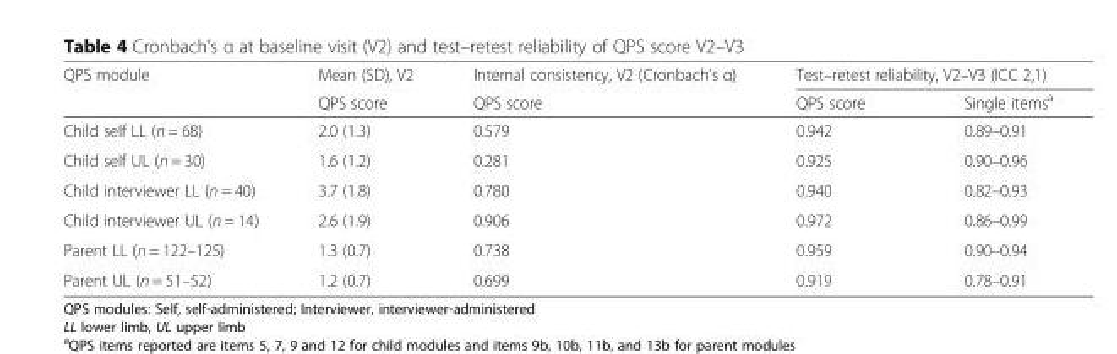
<table><thead><tr><td rowspan="2">QPS module</td><td rowspan="2">Mean (SD), V2 QPS score</td><td rowspan="2">Internal consistency, V2 (Cronbach’s α) QPS score</td><td colspan="2">Test–retest reliability, V2–V3 (ICC 2,1)</td></tr><tr><td>QPS score</td><td>Single items<sup>a</sup></td></tr></thead><tbody><tr><td>Child self LL (n = 68)</td><td>2.0 (1.3)</td><td>0.579</td><td>0.942</td><td>0.89–0.91</td></tr><tr><td>Child self UL (n = 30)</td><td>1.6 (1.2)</td><td>0.281</td><td>0.925</td><td>0.90–0.96</td></tr><tr><td>Child interviewer LL (n = 40)</td><td>3.7 (1.8)</td><td>0.780</td><td>0.940</td><td>0.82–0.93</td></tr><tr><td>Child interviewer UL (n = 14)</td><td>2.6 (1.9)</td><td>0.906</td><td>0.972</td><td>0.86–0.99</td></tr><tr><td>Parent LL (n = 122–125)</td><td>1.3 (0.7)</td><td>0.738</td><td>0.959</td><td>0.90–0.94</td></tr><tr><td>Parent UL (n = 51–52)</td><td>1.2 (0.7)</td><td>0.699</td><td>0.919</td><td>0.78–0.91</td></tr></tbody></table>